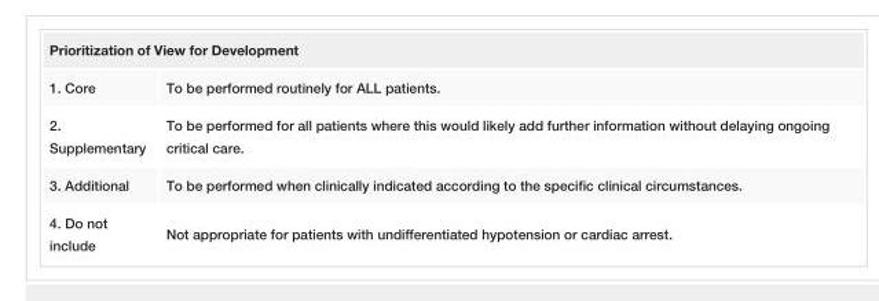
<table><tbody><tr><td colspan="2">Prioritization of View for Development</td></tr><tr><td>1. Core</td><td>To be performed routinely for ALL patients.</td></tr><tr><td>2. Supplementary</td><td>To be performed for all patients where this would likely add further information without delaying ongoing critical care.</td></tr><tr><td>3. Additional</td><td>To be performed when clinically indicated according to the specific clinical circumstances.</td></tr><tr><td>4. Do not include</td><td>Not appropriate for patients with undifferentiated hypotension or cardiac arrest.</td></tr></tbody></table>